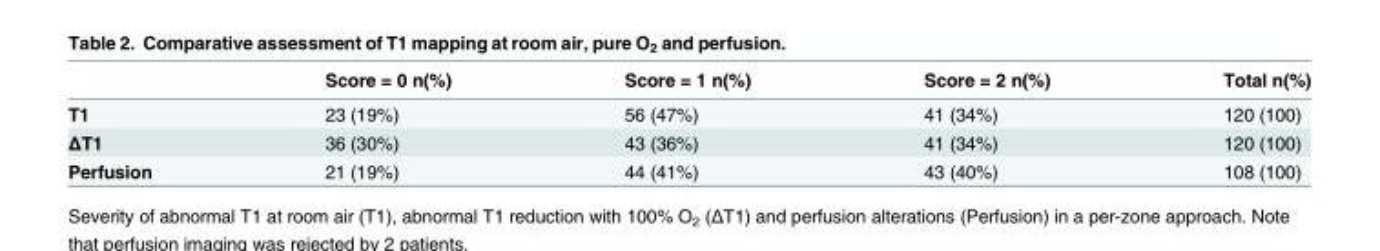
<table><thead><tr><td></td><td>Score = 0 n(%)</td><td>Score = 1 n(%)</td><td>Score = 2 n(%)</td><td>Total n(%)</td></tr></thead><tbody><tr><td>T1</td><td>23 (19%)</td><td>56 (47%)</td><td>41 (34%)</td><td>120 (100)</td></tr><tr><td>ΔT1</td><td>36 (30%)</td><td>43 (36%)</td><td>41 (34%)</td><td>120 (100)</td></tr><tr><td>Perfusion</td><td>21 (19%)</td><td>44 (41%)</td><td>43 (40%)</td><td>108 (100)</td></tr></tbody></table>